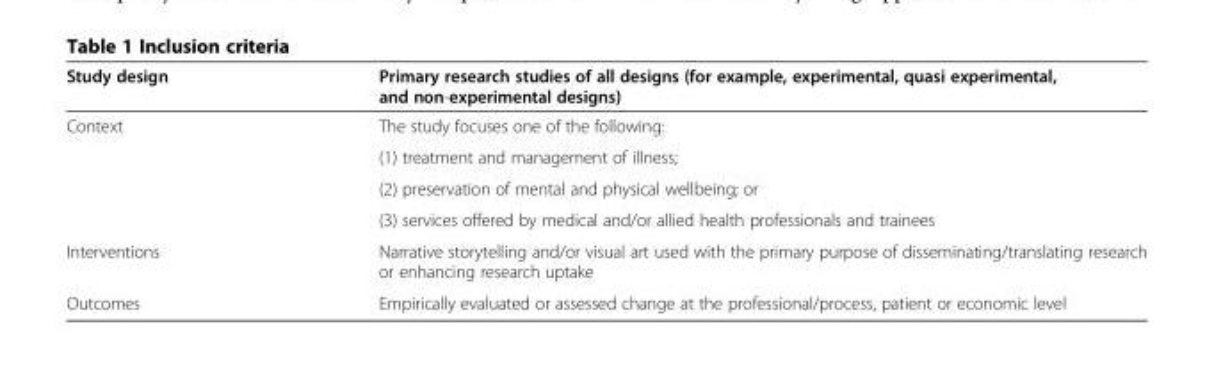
<table><thead><tr><td>Study design</td><td>Primary research studies of all designs (for example, experimental, quasi experimental, and non-experimental designs)</td></tr></thead><tbody><tr><td rowspan="4">Context</td><td>The study focuses one of the following:</td></tr><tr><td>(1) treatment and management of illness;</td></tr><tr><td>(2) preservation of mental and physical wellbeing; or</td></tr><tr><td>(3) services offered by medical and/or allied health professionals and trainees</td></tr><tr><td>Interventions</td><td>Narrative storytelling and/or visual art used with the primary purpose of disseminating/translating research or enhancing research uptake</td></tr><tr><td>Outcomes</td><td>Empirically evaluated or assessed change at the professional/process, patient or economic level</td></tr></tbody></table>